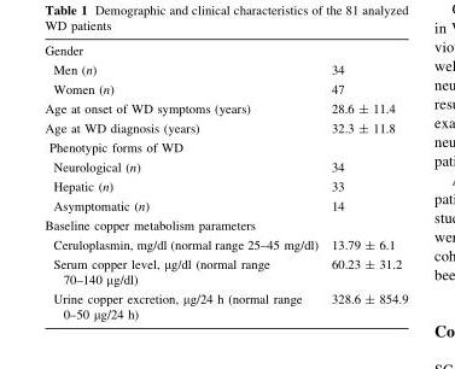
<table><tbody><tr><td colspan="2">Gender</td></tr><tr><td>Men (n)</td><td>34</td></tr><tr><td>Women (n)</td><td>47</td></tr><tr><td>Age at onset of WD symptoms (years)</td><td>28.6 ± 11.4</td></tr><tr><td>Age at WD diagnosis (years)</td><td>32.3 ± 11.8</td></tr><tr><td colspan="2">Phenotypic forms of WD</td></tr><tr><td>Neurological (n)</td><td>34</td></tr><tr><td>Hepatic (n)</td><td>33</td></tr><tr><td>Asymptomatic (n)</td><td>14</td></tr><tr><td colspan="2">Baseline copper metabolism parameters</td></tr><tr><td>Ceruloplasmin, mg/dl (normal range 25–45 mg/dl)</td><td>13.79 ± 6.1</td></tr><tr><td>Serum copper level, µg/dl (normal range 70–140 µg/dl)</td><td>60.23 ± 31.2</td></tr><tr><td>Urine copper excretion, µg/24 h (normal range 0–50 µg/24 h)</td><td>328.6 ± 854.9</td></tr></tbody></table>